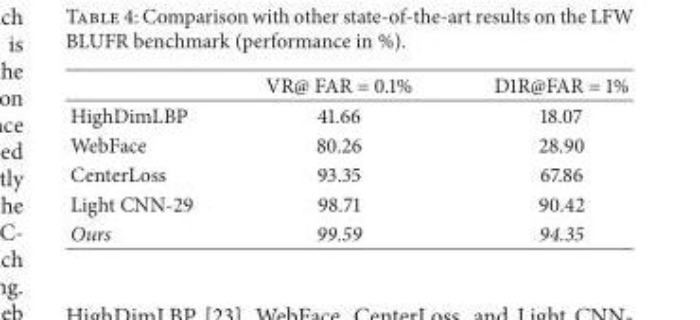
<table><thead><tr><td></td><td>VR@ FAR = 0.1%</td><td>D1R@FAR = 1%</td></tr></thead><tbody><tr><td>HighDimLBP</td><td>41.66</td><td>18.07</td></tr><tr><td>WebFace</td><td>80.26</td><td>28.90</td></tr><tr><td>CenterLoss</td><td>93.35</td><td>67.86</td></tr><tr><td>Light CNN-29</td><td>98.71</td><td>90.42</td></tr><tr><td>Ours</td><td>99.59</td><td>94.35</td></tr></tbody></table>